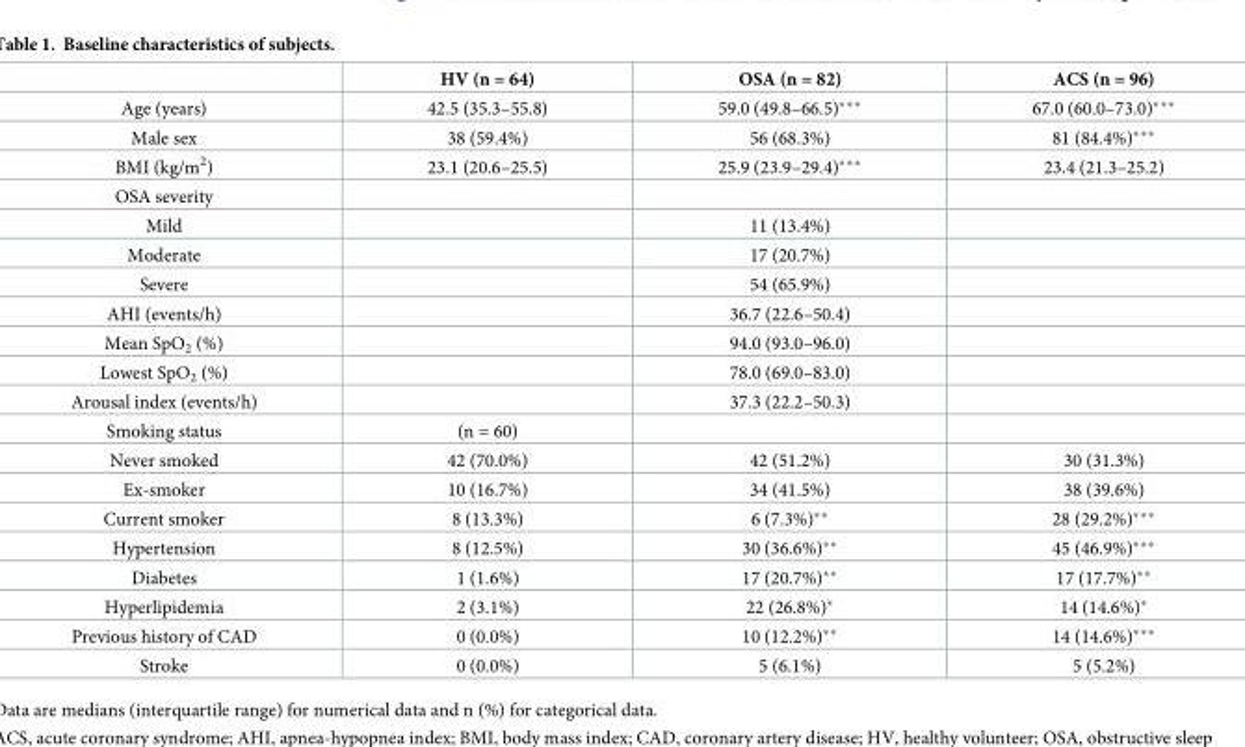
<table><thead><tr><td></td><td>HV (n = 64)</td><td>OSA (n = 82)</td><td>ACS (n = 96)</td></tr></thead><tbody><tr><td>Age (years)</td><td>42.5 (35.3–55.8)</td><td>59.0 (49.8–66.5)***</td><td>67.0 (60.0–73.0)***</td></tr><tr><td>Male sex</td><td>38 (59.4%)</td><td>56 (68.3%)</td><td>81 (84.4%)***</td></tr><tr><td>BMI (kg/m<sup>2</sup>)</td><td>23.1 (20.6–25.5)</td><td>25.9 (23.9–29.4)***</td><td>23.4 (21.3–25.2)</td></tr><tr><td colspan="4">OSA severity</td></tr><tr><td>Mild</td><td></td><td>11 (13.4%)</td><td></td></tr><tr><td>Moderate</td><td></td><td>17 (20.7%)</td><td></td></tr><tr><td>Severe</td><td></td><td>54 (65.9%)</td><td></td></tr><tr><td>AHI (events/h)</td><td></td><td>36.7 (22.6–50.4)</td><td></td></tr><tr><td>Mean SpO<sub>2</sub> (%)</td><td></td><td>94.0 (93.0–96.0)</td><td></td></tr><tr><td>Lowest SpO<sub>2</sub> (%)</td><td></td><td>78.0 (69.0–83.0)</td><td></td></tr><tr><td>Arousal index (events/h)</td><td></td><td>37.3 (22.2–50.3)</td><td></td></tr><tr><td>Smoking status</td><td>(n = 60)</td><td></td><td></td></tr><tr><td>Never smoked</td><td>42 (70.0%)</td><td>42 (51.2%)</td><td>30 (31.3%)</td></tr><tr><td>Ex-smoker</td><td>10 (16.7%)</td><td>34 (41.5%)</td><td>38 (39.6%)</td></tr><tr><td>Current smoker</td><td>8 (13.3%)</td><td>6 (7.3%)**</td><td>28 (29.2%)***</td></tr><tr><td>Hypertension</td><td>8 (12.5%)</td><td>30 (36.6%)**</td><td>45 (46.9%)***</td></tr><tr><td>Diabetes</td><td>1 (1.6%)</td><td>17 (20.7%)**</td><td>17 (17.7%)**</td></tr><tr><td>Hyperlipidemia</td><td>2 (3.1%)</td><td>22 (26.8%)*</td><td>14 (14.6%)*</td></tr><tr><td>Previous history of CAD</td><td>0 (0.0%)</td><td>10 (12.2%)**</td><td>14 (14.6%)***</td></tr><tr><td>Stroke</td><td>0 (0.0%)</td><td>5 (6.1%)</td><td>5 (5.2%)</td></tr></tbody></table>